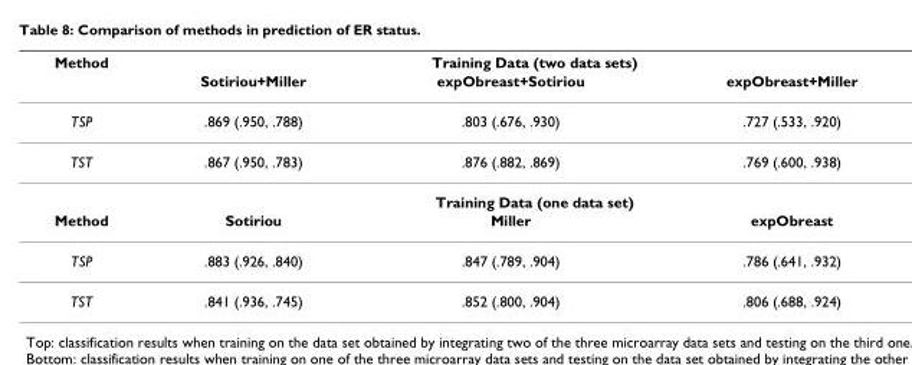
<table><thead><tr><td rowspan="2">Method</td><td colspan="3">Training Data (two data sets)</td></tr><tr><td>Sotiriou+Miller</td><td>expObreast+Sotiriou</td><td>expObreast+Miller</td></tr></thead><tbody><tr><td>TSP</td><td>.869 (.950, .788)</td><td>.803 (.676, .930)</td><td>.727 (.533, .920)</td></tr><tr><td rowspan="2">TST</td><td>.867 (.950, .783)</td><td>.876 (.882, .869)</td><td>.769 (.600, .938)</td></tr><tr><td colspan="3">Training Data (one data set)</td></tr><tr><td>Method</td><td>Sotiriou</td><td>Miller</td><td>expObreast</td></tr><tr><td>TSP</td><td>.883 (.926, .840)</td><td>.847 (.789, .904)</td><td>.786 (.641, .932)</td></tr><tr><td>TST</td><td>.841 (.936, .745)</td><td>.852 (.800, .904)</td><td>.806 (.688, .924)</td></tr></tbody></table>